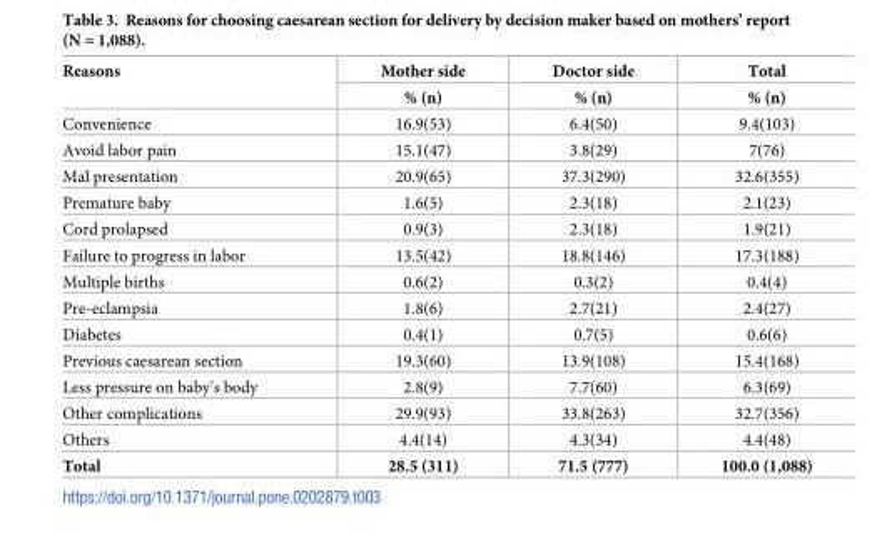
<table><thead><tr><td rowspan="2">Reasons</td><td rowspan="2">Mother side % (n)</td><td rowspan="2">Doctor side % (n)</td><td rowspan="2">Total % (n)</td></tr><tr></tr></thead><tbody><tr><td>Convenience</td><td>16.9(53)</td><td>6.4(50)</td><td>9.4(103)</td></tr><tr><td>Avoid labor pain</td><td>15.1(47)</td><td>3.8(29)</td><td>7(76)</td></tr><tr><td>Mal presentation</td><td>20.9(65)</td><td>37.3(290)</td><td>32.6(355)</td></tr><tr><td>Premature baby</td><td>1.6(5)</td><td>2.3(18)</td><td>2.1(23)</td></tr><tr><td>Cord prolapsed</td><td>0.9(3)</td><td>2.3(18)</td><td>1.9(21)</td></tr><tr><td>Failure to progress in labor</td><td>13.5(42)</td><td>18.8(146)</td><td>17.3(188)</td></tr><tr><td>Multiple births</td><td>0.6(2)</td><td>0.3(2)</td><td>0.4(4)</td></tr><tr><td>Pre-eclampsia</td><td>1.8(6)</td><td>2.7(21)</td><td>2.4(27)</td></tr><tr><td>Diabetes</td><td>0.4(1)</td><td>0.7(5)</td><td>0.6(6)</td></tr><tr><td>Previous caesarean section</td><td>19.3(60)</td><td>13.9(108)</td><td>15.4(168)</td></tr><tr><td>Less pressure on baby’s body</td><td>2.8(9)</td><td>7.7(60)</td><td>6.3(69)</td></tr><tr><td>Other complications</td><td>29.9(93)</td><td>33.8(263)</td><td>32.7(356)</td></tr><tr><td>Others</td><td>4.4(14)</td><td>4.3(34)</td><td>4.4(48)</td></tr><tr><td>Total</td><td>28.5 (311)</td><td>71.5 (777)</td><td>100.0 (1,088)</td></tr></tbody></table>